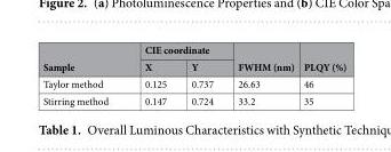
<table><thead><tr><td rowspan="2">Sample</td><td colspan="2">CIE coordinate</td><td rowspan="2">FWHM (nm)</td><td rowspan="2">PLQY (%)</td></tr><tr><td>X</td><td>Y</td></tr></thead><tbody><tr><td>Taylor method</td><td>0.125</td><td>0.737</td><td>26.63</td><td>46</td></tr><tr><td>Stirring method</td><td>0.147</td><td>0.724</td><td>33.2</td><td>35</td></tr></tbody></table>